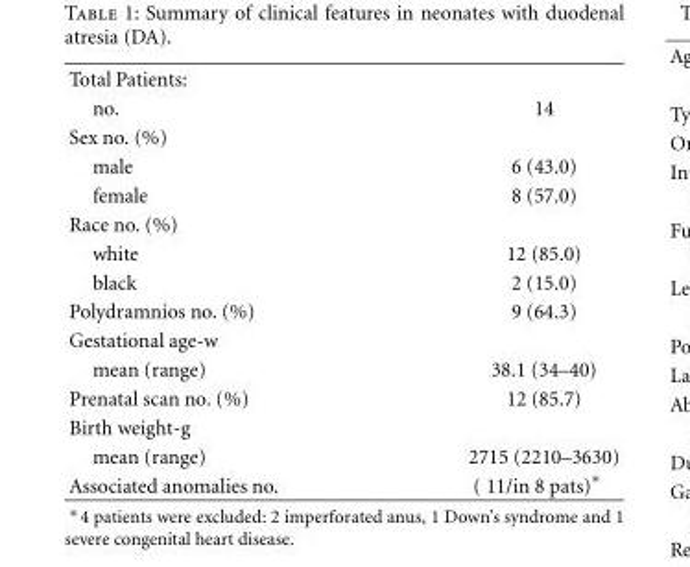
<table><tbody><tr><td colspan="2">Total Patients:</td></tr><tr><td>no.</td><td>14</td></tr><tr><td colspan="2">Sex no. (%)</td></tr><tr><td>male</td><td>6 (43.0)</td></tr><tr><td>female</td><td>8 (57.0)</td></tr><tr><td colspan="2">Race no. (%)</td></tr><tr><td>white</td><td>12 (85.0)</td></tr><tr><td>black</td><td>2 (15.0)</td></tr><tr><td>Polydramnios no. (%)</td><td>9 (64.3)</td></tr><tr><td colspan="2">Gestational age-w</td></tr><tr><td>mean (range)</td><td>38.1 (34–40)</td></tr><tr><td>Prenatal scan no. (%)</td><td>12 (85.7)</td></tr><tr><td colspan="2">Birth weight-g</td></tr><tr><td>mean (range)</td><td>2715 (2210–3630)</td></tr><tr><td>Associated anomalies no.</td><td>( 11/in 8 pats)∗</td></tr></tbody></table>